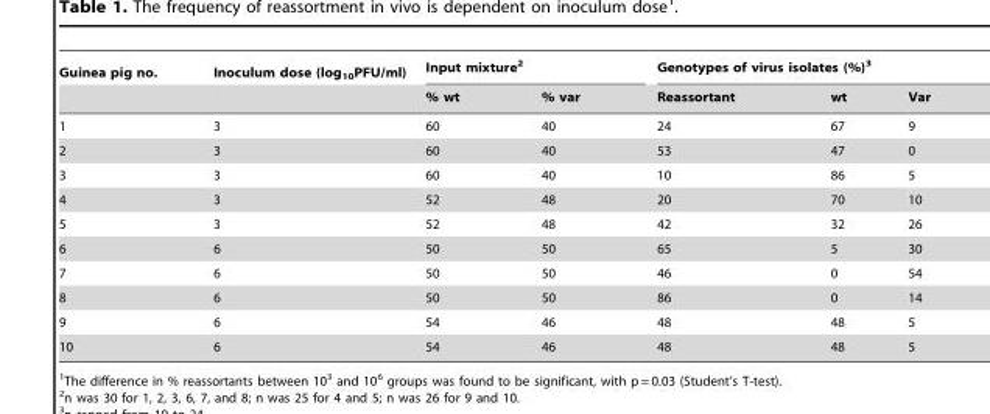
<table><thead><tr><td rowspan="2">Guinea pig no.</td><td rowspan="2">Inoculum dose (log<sub>10</sub>PFU/ml)</td><td colspan="2">Input mixture<sup>2</sup></td><td colspan="3">Genotypes of virus isolates (%)<sup>3</sup></td></tr><tr><td>% wt</td><td>% var</td><td>Reassortant</td><td>wt</td><td>Var</td></tr></thead><tbody><tr><td>1</td><td>3</td><td>60</td><td>40</td><td>24</td><td>67</td><td>9</td></tr><tr><td>2</td><td>3</td><td>60</td><td>40</td><td>53</td><td>47</td><td>0</td></tr><tr><td>3</td><td>3</td><td>60</td><td>40</td><td>10</td><td>86</td><td>5</td></tr><tr><td>4</td><td>3</td><td>52</td><td>48</td><td>20</td><td>70</td><td>10</td></tr><tr><td>5</td><td>3</td><td>52</td><td>48</td><td>42</td><td>32</td><td>26</td></tr><tr><td>6</td><td>6</td><td>50</td><td>50</td><td>65</td><td>5</td><td>30</td></tr><tr><td>7</td><td>6</td><td>50</td><td>50</td><td>46</td><td>0</td><td>54</td></tr><tr><td>8</td><td>6</td><td>50</td><td>50</td><td>86</td><td>0</td><td>14</td></tr><tr><td>9</td><td>6</td><td>54</td><td>46</td><td>48</td><td>48</td><td>5</td></tr><tr><td>10</td><td>6</td><td>54</td><td>46</td><td>48</td><td>48</td><td>5</td></tr></tbody></table>